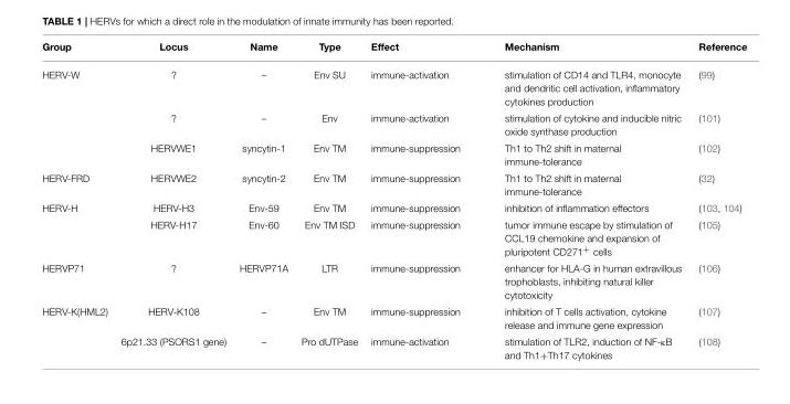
<table><thead><tr><td>Group</td><td>Locus</td><td>Name</td><td>Type</td><td>Effect</td><td>Mechanism</td><td>Reference</td></tr></thead><tbody><tr><td rowspan="3">HERV-W</td><td>?</td><td>–</td><td>Env SU</td><td>immune-activation</td><td>stimulation of CD14 and TLR4, monocyte and dendritic cell activation, inflammatory cytokines production</td><td>(99)</td></tr><tr><td>?</td><td>–</td><td>Env</td><td>immune-activation</td><td>stimulation of cytokine and inducible nitric oxide synthase production</td><td>(101)</td></tr><tr><td>HERVWE1</td><td>syncytin-1</td><td>Env TM</td><td>immune-suppression</td><td>Th1 to Th2 shift in maternal immune-tolerance</td><td>(102)</td></tr><tr><td>HERV-FRD</td><td>HERVWE2</td><td>syncytin-2</td><td>Env TM</td><td>immune-suppression</td><td>Th1 to Th2 shift in maternal immune-tolerance</td><td>(32)</td></tr><tr><td rowspan="2">HERV-H</td><td>HERV-H3</td><td>Env-59</td><td>Env TM</td><td>immune-suppression</td><td>inhibition of inflammation effectors</td><td>(103, 104)</td></tr><tr><td>HERV-H17</td><td>Env-60</td><td>Env TM ISD</td><td>immune-suppression</td><td>tumor immune escape by stimulation of CCL19 chemokine and expansion of pluripotent CD271<sup>+</sup> cells</td><td>(105)</td></tr><tr><td>HERVP71</td><td>?</td><td>HERVP71A</td><td>LTR</td><td>immune-suppression</td><td>enhancer for HLA-G in human extravillous trophoblasts, inhibiting natural killer cytotoxicity</td><td>(106)</td></tr><tr><td rowspan="2">HERV-K(HML2)</td><td>HERV-K108</td><td>–</td><td>Env TM</td><td>immune-suppression</td><td>inhibition of T cells activation, cytokine release and immune gene expression</td><td>(107)</td></tr><tr><td>6p21.33 (PSORS1 gene)</td><td>–</td><td>Pro dUTPase</td><td>immune-activation</td><td>stimulation of TLR2, induction of NF-κB and Th1+Th17 cytokines</td><td>(108)</td></tr></tbody></table>